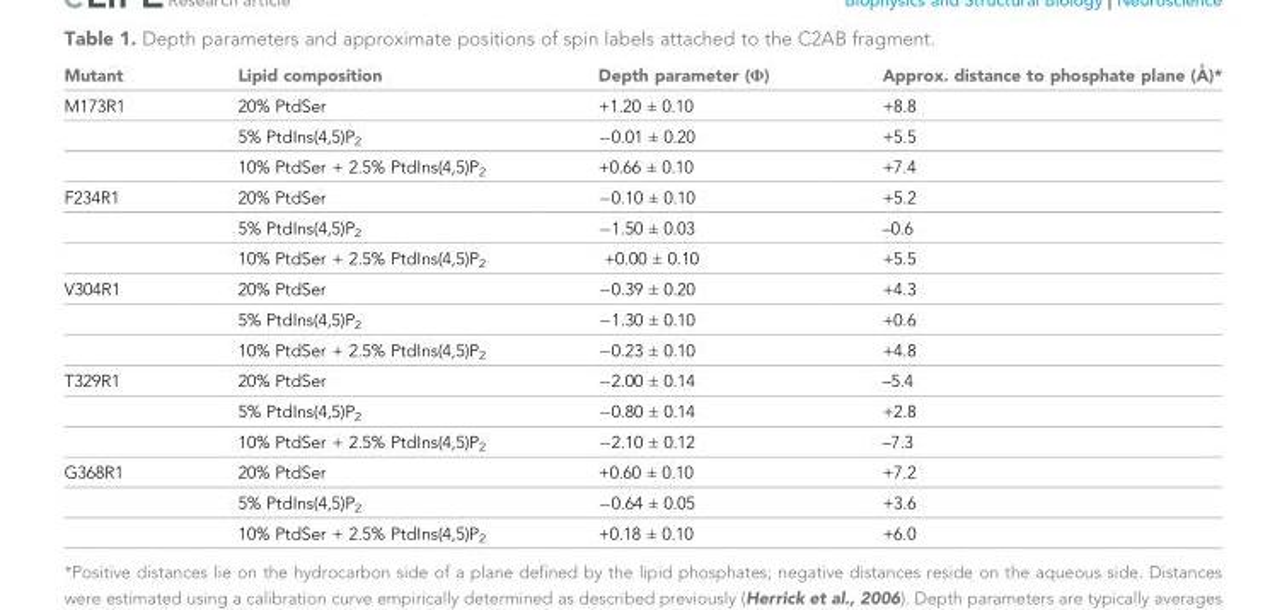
<table><thead><tr><td>Mutant</td><td>Lipid composition</td><td>Depth parameter (Φ)</td><td>Approx. distance to phosphate plane (A˚ )*</td></tr></thead><tbody><tr><td rowspan="3">M173R1</td><td>20% PtdSer</td><td>+1.20 ± 0.10</td><td>+8.8</td></tr><tr><td>5% PtdIns(4,5)P<sub>2</sub></td><td>−0.01 ± 0.20</td><td>+5.5</td></tr><tr><td>10% PtdSer + 2.5% PtdIns(4,5)P<sub>2</sub></td><td>+0.66 ± 0.10</td><td>+7.4</td></tr><tr><td rowspan="3">F234R1</td><td>20% PtdSer</td><td>−0.10 ± 0.10</td><td>+5.2</td></tr><tr><td>5% PtdIns(4,5)P<sub>2</sub></td><td>−1.50 ± 0.03</td><td>–0.6</td></tr><tr><td>10% PtdSer + 2.5% PtdIns(4,5)P<sub>2</sub></td><td>+0.00 ± 0.10</td><td>+5.5</td></tr><tr><td rowspan="3">V304R1</td><td>20% PtdSer</td><td>−0.39 ± 0.20</td><td>+4.3</td></tr><tr><td>5% PtdIns(4,5)P<sub>2</sub></td><td>−1.30 ± 0.10</td><td>+0.6</td></tr><tr><td>10% PtdSer + 2.5% PtdIns(4,5)P<sub>2</sub></td><td>−0.23 ± 0.10</td><td>+4.8</td></tr><tr><td rowspan="3">T329R1</td><td>20% PtdSer</td><td>−2.00 ± 0.14</td><td>–5.4</td></tr><tr><td>5% PtdIns(4,5)P<sub>2</sub></td><td>−0.80 ± 0.14</td><td>+2.8</td></tr><tr><td>10% PtdSer + 2.5% PtdIns(4,5)P<sub>2</sub></td><td>−2.10 ± 0.12</td><td>–7.3</td></tr><tr><td rowspan="3">G368R1</td><td>20% PtdSer</td><td>+0.60 ± 0.10</td><td>+7.2</td></tr><tr><td>5% PtdIns(4,5)P<sub>2</sub></td><td>−0.64 ± 0.05</td><td>+3.6</td></tr><tr><td>10% PtdSer + 2.5% PtdIns(4,5)P<sub>2</sub></td><td>+0.18 ± 0.10</td><td>+6.0</td></tr></tbody></table>